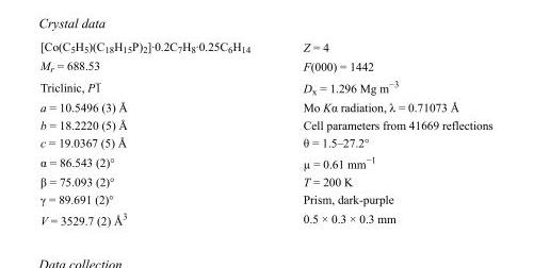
<table><tbody><tr><td>[Co(C<sub>5</sub>H<sub>5</sub>)(C<sub>18</sub>H<sub>15</sub>P)<sub>2</sub>]·0.2C<sub>7</sub>H<sub>8</sub>·0.25C<sub>6</sub>H<sub>14</sub></td><td>Z = 4</td></tr><tr><td>M<sub>r</sub> = 688.53</td><td>F(000) = 1442</td></tr><tr><td>Triclinic, P1</td><td>D<sub>x</sub> = 1.296 Mg m<sup>−3</sup></td></tr><tr><td>a = 10.5496 (3) Å</td><td>Mo Kα radiation, λ = 0.71073 Å</td></tr><tr><td>b = 18.2220 (5) Å</td><td>Cell parameters from 41669 reflections</td></tr><tr><td>c = 19.0367 (5) Å</td><td>θ = 1.5–27.2°</td></tr><tr><td>α = 86.543 (2)°</td><td>µ = 0.61 mm<sup>−1</sup></td></tr><tr><td>β = 75.093 (2)°</td><td>T = 200 K</td></tr><tr><td>γ = 89.691 (2)°</td><td>Prism, dark-purple</td></tr><tr><td>V = 3529.7 (2) Å<sup>3</sup></td><td>0.5 × 0.3 × 0.3 mm</td></tr></tbody></table>